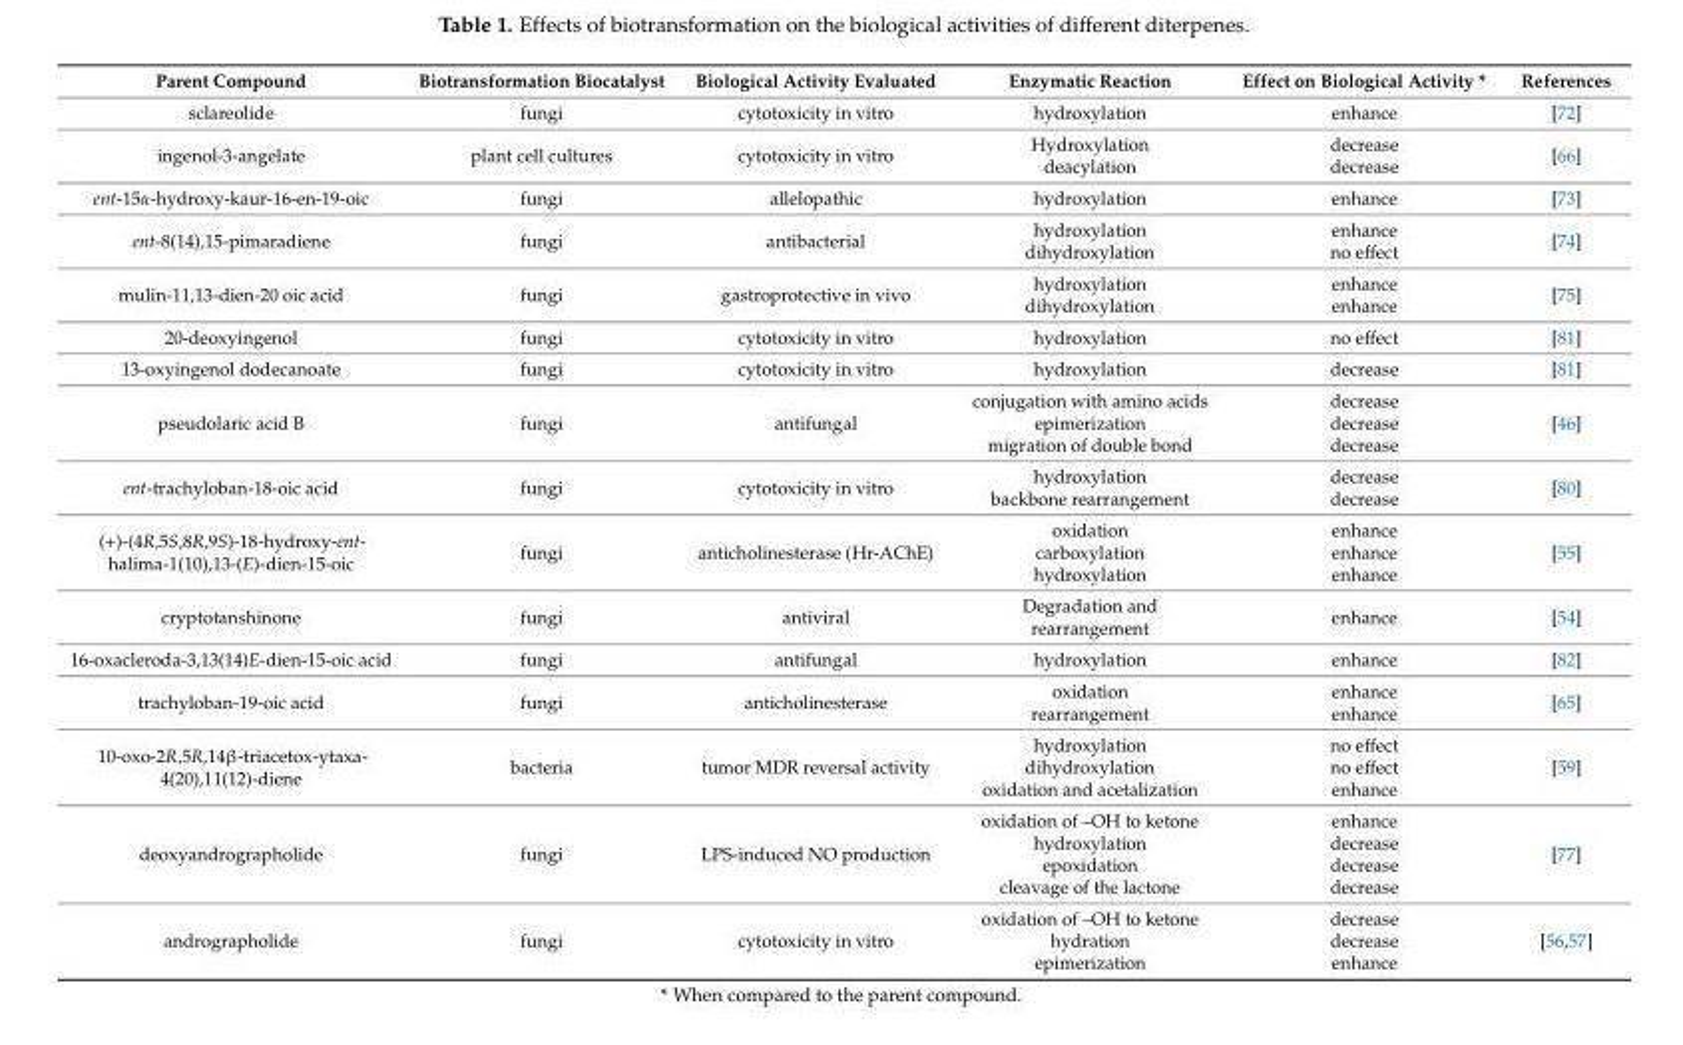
<table><thead><tr><td>Parent Compound</td><td>Biotransformation Biocatalyst</td><td>Biological Activity Evaluated</td><td>Enzymatic Reaction</td><td>Effect on Biological Activity *</td><td>References</td></tr></thead><tbody><tr><td>sclareolide</td><td>fungi</td><td>cytotoxicity in vitro</td><td>hydroxylation</td><td>enhance</td><td>[72]</td></tr><tr><td>ingenol-3-angelate</td><td>plant cell cultures</td><td>cytotoxicity in vitro</td><td>Hydroxylation deacylation</td><td>decrease decrease</td><td>[66]</td></tr><tr><td>ent-15α-hydroxy-kaur-16-en-19-oic</td><td>fungi</td><td>allelopathic</td><td>hydroxylation</td><td>enhance</td><td>[73]</td></tr><tr><td>ent-8(14),15-pimaradiene</td><td>fungi</td><td>antibacterial</td><td>hydroxylation dihydroxylation</td><td>enhance no effect</td><td>[74]</td></tr><tr><td>mulin-11,13-dien-20 oic acid</td><td>fungi</td><td>gastroprotective in vivo</td><td>hydroxylation dihydroxylation</td><td>enhance enhance</td><td>[75]</td></tr><tr><td>20-deoxyingenol</td><td>fungi</td><td>cytotoxicity in vitro</td><td>hydroxylation</td><td>no effect</td><td>[81]</td></tr><tr><td>13-oxyingenol dodecanoate</td><td>fungi</td><td>cytotoxicity in vitro</td><td>hydroxylation</td><td>decrease</td><td>[81]</td></tr><tr><td>pseudolaric acid B</td><td>fungi</td><td>antifungal</td><td>conjugation with amino acids epimerization migration of double bond</td><td>decrease decrease decrease</td><td>[46]</td></tr><tr><td>ent-trachyloban-18-oic acid</td><td>fungi</td><td>cytotoxicity in vitro</td><td>hydroxylation backbone rearrangement</td><td>decrease decrease</td><td>[80]</td></tr><tr><td>(+)-(4R,5S,8R,9S)-18-hydroxy-ent- halima-1(10),13-(E)-dien-15-oic</td><td>fungi</td><td>anticholinesterase (Hr-AChE)</td><td>oxidation carboxylation hydroxylation</td><td>enhance enhance enhance</td><td>[55]</td></tr><tr><td>cryptotanshinone</td><td>fungi</td><td>antiviral</td><td>Degradation and rearrangement</td><td>enhance</td><td>[54]</td></tr><tr><td>16-oxacleroda-3,13(14)E-dien-15-oic acid</td><td>fungi</td><td>antifungal</td><td>hydroxylation</td><td>enhance</td><td>[82]</td></tr><tr><td>trachyloban-19-oic acid</td><td>fungi</td><td>anticholinesterase</td><td>oxidation rearrangement</td><td>enhance enhance</td><td>[65]</td></tr><tr><td>10-oxo-2R,5R,14β-triacetox-ytaxa- 4(20),11(12)-diene</td><td>bacteria</td><td>tumor MDR reversal activity</td><td>hydroxylation dihydroxylation oxidation and acetalization</td><td>no effect no effect enhance</td><td>[59]</td></tr><tr><td>deoxyandrographolide</td><td>fungi</td><td>LPS-induced NO production</td><td>oxidation of –OH to ketone hydroxylation epoxidation cleavage of the lactone</td><td>enhance decrease decrease decrease</td><td>[77]</td></tr><tr><td>andrographolide</td><td>fungi</td><td>cytotoxicity in vitro</td><td>oxidation of –OH to ketone hydration epimerization</td><td>decrease decrease enhance</td><td>[56,57]</td></tr></tbody></table>